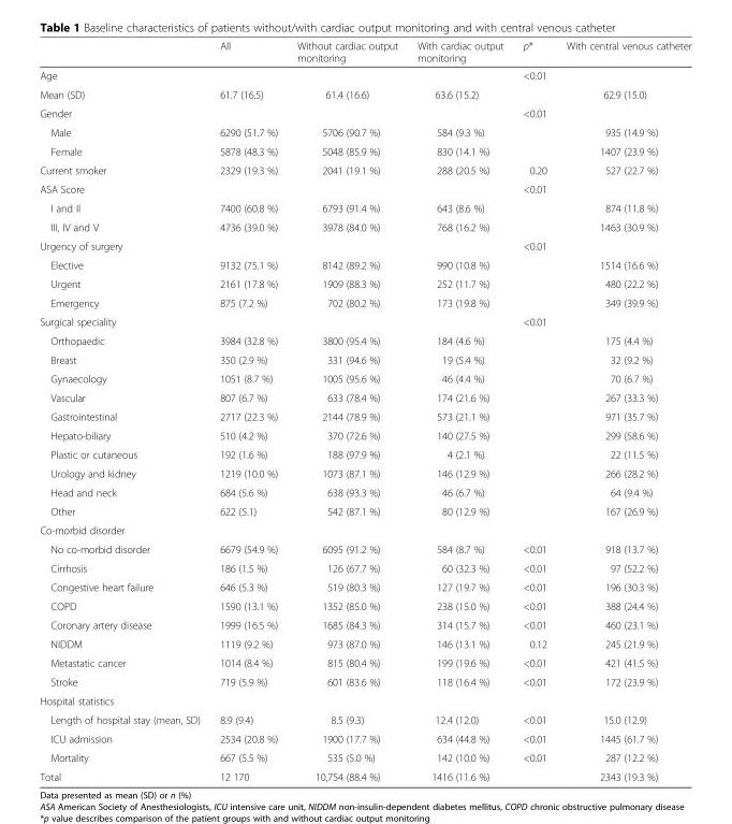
<table><thead><tr><td></td><td>All</td><td>Without cardiac output monitoring</td><td>With cardiac output monitoring</td><td>p*</td><td>With central venous catheter</td></tr></thead><tbody><tr><td>Age</td><td></td><td></td><td></td><td>&lt;0.01</td><td></td></tr><tr><td>Mean (SD)</td><td>61.7 (16.5)</td><td>61.4 (16.6)</td><td>63.6 (15.2)</td><td></td><td>62.9 (15.0)</td></tr><tr><td>Gender</td><td></td><td></td><td></td><td>&lt;0.01</td><td></td></tr><tr><td>Male</td><td>6290 (51.7 %)</td><td>5706 (90.7 %)</td><td>584 (9.3 %)</td><td></td><td>935 (14.9 %)</td></tr><tr><td>Female</td><td>5878 (48.3 %)</td><td>5048 (85.9 %)</td><td>830 (14.1 %)</td><td></td><td>1407 (23.9 %)</td></tr><tr><td>Current smoker</td><td>2329 (19.3 %)</td><td>2041 (19.1 %)</td><td>288 (20.5 %)</td><td>0.20</td><td>527 (22.7 %)</td></tr><tr><td>ASA Score</td><td></td><td></td><td></td><td>&lt;0.01</td><td></td></tr><tr><td>I and II</td><td>7400 (60.8 %)</td><td>6793 (91.4 %)</td><td>643 (8.6 %)</td><td></td><td>874 (11.8 %)</td></tr><tr><td>III, IV and V</td><td>4736 (39.0 %)</td><td>3978 (84.0 %)</td><td>768 (16.2 %)</td><td></td><td>1463 (30.9 %)</td></tr><tr><td>Urgency of surgery</td><td></td><td></td><td></td><td>&lt;0.01</td><td></td></tr><tr><td>Elective</td><td>9132 (75.1 %)</td><td>8142 (89.2 %)</td><td>990 (10.8 %)</td><td></td><td>1514 (16.6 %)</td></tr><tr><td>Urgent</td><td>2161 (17.8 %)</td><td>1909 (88.3 %)</td><td>252 (11.7 %)</td><td></td><td>480 (22.2 %)</td></tr><tr><td>Emergency</td><td>875 (7.2 %)</td><td>702 (80.2 %)</td><td>173 (19.8 %)</td><td></td><td>349 (39.9 %)</td></tr><tr><td>Surgical speciality</td><td></td><td></td><td></td><td>&lt;0.01</td><td></td></tr><tr><td>Orthopaedic</td><td>3984 (32.8 %)</td><td>3800 (95.4 %)</td><td>184 (4.6 %)</td><td></td><td>175 (4.4 %)</td></tr><tr><td>Breast</td><td>350 (2.9 %)</td><td>331 (94.6 %)</td><td>19 (5.4 %)</td><td></td><td>32 (9.2 %)</td></tr><tr><td>Gynaecology</td><td>1051 (8.7 %)</td><td>1005 (95.6 %)</td><td>46 (4.4 %)</td><td></td><td>70 (6.7 %)</td></tr><tr><td>Vascular</td><td>807 (6.7 %)</td><td>633 (78.4 %)</td><td>174 (21.6 %)</td><td></td><td>267 (33.3 %)</td></tr><tr><td>Gastrointestinal</td><td>2717 (22.3 %)</td><td>2144 (78.9 %)</td><td>573 (21.1 %)</td><td></td><td>971 (35.7 %)</td></tr><tr><td>Hepato-biliary</td><td>510 (4.2 %)</td><td>370 (72.6 %)</td><td>140 (27.5 %)</td><td></td><td>299 (58.6 %)</td></tr><tr><td>Plastic or cutaneous</td><td>192 (1.6 %)</td><td>188 (97.9 %)</td><td>4 (2.1 %)</td><td></td><td>22 (11.5 %)</td></tr><tr><td>Urology and kidney</td><td>1219 (10.0 %)</td><td>1073 (87.1 %)</td><td>146 (12.9 %)</td><td></td><td>266 (28.2 %)</td></tr><tr><td>Head and neck</td><td>684 (5.6 %)</td><td>638 (93.3 %)</td><td>46 (6.7 %)</td><td></td><td>64 (9.4 %)</td></tr><tr><td>Other</td><td>622 (5.1)</td><td>542 (87.1 %)</td><td>80 (12.9 %)</td><td></td><td>167 (26.9 %)</td></tr><tr><td colspan="6">Co-morbid disorder</td></tr><tr><td>No co-morbid disorder</td><td>6679 (54.9 %)</td><td>6095 (91.2 %)</td><td>584 (8.7 %)</td><td>&lt;0.01</td><td>918 (13.7 %)</td></tr><tr><td>Cirrhosis</td><td>186 (1.5 %)</td><td>126 (67.7 %)</td><td>60 (32.3 %)</td><td>&lt;0.01</td><td>97 (52.2 %)</td></tr><tr><td>Congestive heart failure</td><td>646 (5.3 %)</td><td>519 (80.3 %)</td><td>127 (19.7 %)</td><td>&lt;0.01</td><td>196 (30.3 %)</td></tr><tr><td>COPD</td><td>1590 (13.1 %)</td><td>1352 (85.0 %)</td><td>238 (15.0 %)</td><td>&lt;0.01</td><td>388 (24.4 %)</td></tr><tr><td>Coronary artery disease</td><td>1999 (16.5 %)</td><td>1685 (84.3 %)</td><td>314 (15.7 %)</td><td>&lt;0.01</td><td>460 (23.1 %)</td></tr><tr><td>NIDDM</td><td>1119 (9.2 %)</td><td>973 (87.0 %)</td><td>146 (13.1 %)</td><td>0.12</td><td>245 (21.9 %)</td></tr><tr><td>Metastatic cancer</td><td>1014 (8.4 %)</td><td>815 (80.4 %)</td><td>199 (19.6 %)</td><td>&lt;0.01</td><td>421 (41.5 %)</td></tr><tr><td>Stroke</td><td>719 (5.9 %)</td><td>601 (83.6 %)</td><td>118 (16.4 %)</td><td>&lt;0.01</td><td>172 (23.9 %)</td></tr><tr><td colspan="6">Hospital statistics</td></tr><tr><td>Length of hospital stay (mean, SD)</td><td>8.9 (9.4)</td><td>8.5 (9.3)</td><td>12.4 (12.0)</td><td>&lt;0.01</td><td>15.0 (12.9)</td></tr><tr><td>ICU admission</td><td>2534 (20.8 %)</td><td>1900 (17.7 %)</td><td>634 (44.8 %)</td><td>&lt;0.01</td><td>1445 (61.7 %)</td></tr><tr><td>Mortality</td><td>667 (5.5 %)</td><td>535 (5.0 %)</td><td>142 (10.0 %)</td><td>&lt;0.01</td><td>287 (12.2 %)</td></tr><tr><td>Total</td><td>12 170</td><td>10,754 (88.4 %)</td><td>1416 (11.6 %)</td><td></td><td>2343 (19.3 %)</td></tr></tbody></table>